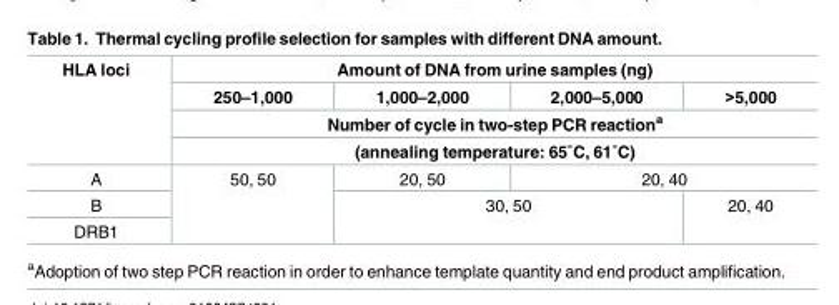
<table><thead><tr><td rowspan="4">HLA loci</td><td colspan="4">Amount of DNA from urine samples (ng)</td></tr><tr><td>250–1,000</td><td>1,000–2,000</td><td>2,000–5,000</td><td>&gt;5,000</td></tr><tr><td rowspan="2" colspan="4">Number of cycle in two-step PCR reactiona (annealing temperature: 65˚C, 61˚C)</td></tr><tr></tr></thead><tbody><tr><td>A</td><td rowspan="3">50, 50</td><td>20, 50</td><td colspan="2">20, 40</td></tr><tr><td>B</td><td rowspan="2" colspan="2">30, 50</td><td rowspan="2">20, 40</td></tr><tr><td>DRB1</td></tr></tbody></table>